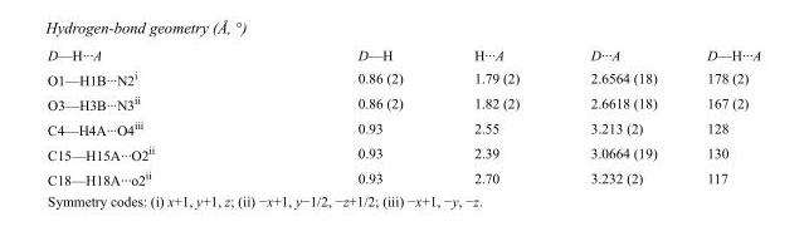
<table><tbody><tr><td>D—H···A</td><td>D—H</td><td>H···A</td><td>D···A</td><td>D—H···A</td></tr><tr><td>O1—H1B···N2<sup>i</sup></td><td>0.86 (2)</td><td>1.79 (2)</td><td>2.6564 (18)</td><td>178 (2)</td></tr><tr><td>O3—H3B···N3<sup>ii</sup></td><td>0.86 (2)</td><td>1.82 (2)</td><td>2.6618 (18)</td><td>167 (2)</td></tr><tr><td>C4—H4A···O4<sup>iii</sup></td><td>0.93</td><td>2.55</td><td>3.213 (2)</td><td>128</td></tr><tr><td>C15—H15A···O2<sup>ii</sup></td><td>0.93</td><td>2.39</td><td>3.0664 (19)</td><td>130</td></tr><tr><td>C18—H18A···o2<sup>ii</sup></td><td>0.93</td><td>2.70</td><td>3.232 (2)</td><td>117</td></tr></tbody></table>